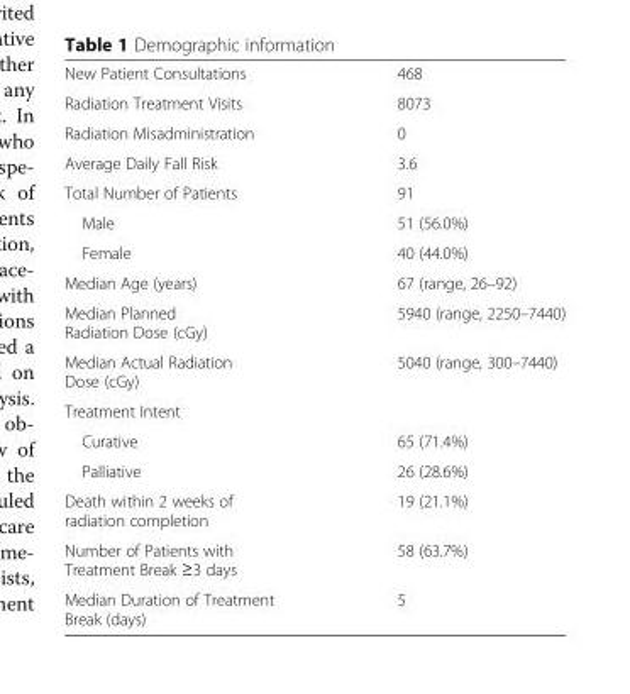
<table><tbody><tr><td>New Patient Consultations</td><td>468</td></tr><tr><td>Radiation Treatment Visits</td><td>8073</td></tr><tr><td>Radiation Misadministration</td><td>0</td></tr><tr><td>Average Daily Fall Risk</td><td>3.6</td></tr><tr><td>Total Number of Patients</td><td>91</td></tr><tr><td>Male</td><td>51 (56.0%)</td></tr><tr><td>Female</td><td>40 (44.0%)</td></tr><tr><td>Median Age (years)</td><td>67 (range, 26–92)</td></tr><tr><td>Median Planned Radiation Dose (cGy)</td><td>5940 (range, 2250–7440)</td></tr><tr><td>Median Actual Radiation Dose (cGy)</td><td>5040 (range, 300–7440)</td></tr><tr><td colspan="2">Treatment Intent</td></tr><tr><td>Curative</td><td>65 (71.4%)</td></tr><tr><td>Palliative</td><td>26 (28.6%)</td></tr><tr><td>Death within 2 weeks of radiation completion</td><td>19 (21.1%)</td></tr><tr><td>Number of Patients with Treatment Break ≥3 days</td><td>58 (63.7%)</td></tr><tr><td>Median Duration of Treatment Break (days)</td><td>5</td></tr></tbody></table>